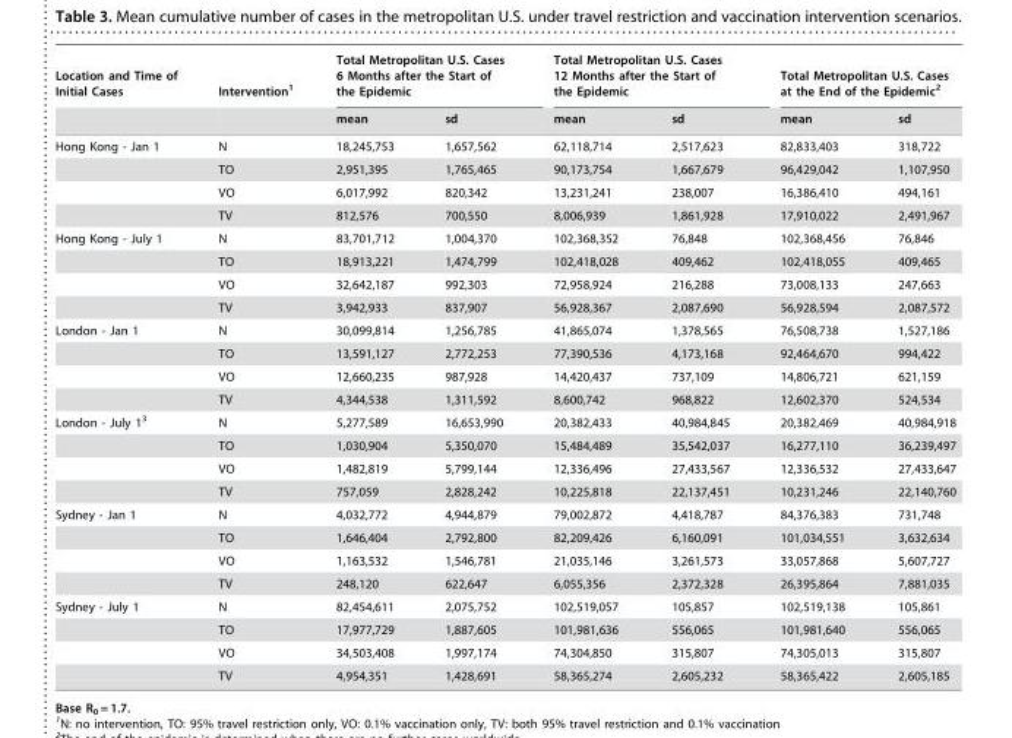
<table><thead><tr><td rowspan="2">Location and Time of Initial Cases</td><td rowspan="2">Intervention<sup>1</sup></td><td colspan="2">Total Metropolitan U.S. Cases 6 Months after the Start of the Epidemic</td><td colspan="2">Total Metropolitan U.S. Cases 12 Months after the Start of the Epidemic</td><td colspan="2">Total Metropolitan U.S. Cases at the End of the Epidemic<sup>2</sup></td></tr><tr><td>mean</td><td>sd</td><td>mean</td><td>sd</td><td>mean</td><td>sd</td></tr></thead><tbody><tr><td rowspan="4">Hong Kong - Jan 1</td><td>N</td><td>18,245,753</td><td>1,657,562</td><td>62,118,714</td><td>2,517,623</td><td>82,833,403</td><td>318,722</td></tr><tr><td>TO</td><td>2,951,395</td><td>1,765,465</td><td>90,173,754</td><td>1,667,679</td><td>96,429,042</td><td>1,107,950</td></tr><tr><td>VO</td><td>6,017,992</td><td>820,342</td><td>13,231,241</td><td>238,007</td><td>16,386,410</td><td>494,161</td></tr><tr><td>TV</td><td>812,576</td><td>700,550</td><td>8,006,939</td><td>1,861,928</td><td>17,910,022</td><td>2,491,967</td></tr><tr><td rowspan="4">Hong Kong - July 1</td><td>N</td><td>83,701,712</td><td>1,004,370</td><td>102,368,352</td><td>76,848</td><td>102,368,456</td><td>76,846</td></tr><tr><td>TO</td><td>18,913,221</td><td>1,474,799</td><td>102,418,028</td><td>409,462</td><td>102,418,055</td><td>409,465</td></tr><tr><td>VO</td><td>32,642,187</td><td>992,303</td><td>72,958,924</td><td>216,288</td><td>73,008,133</td><td>247,663</td></tr><tr><td>TV</td><td>3,942,933</td><td>837,907</td><td>56,928,367</td><td>2,087,690</td><td>56,928,594</td><td>2,087,572</td></tr><tr><td rowspan="4">London - Jan 1</td><td>N</td><td>30,099,814</td><td>1,256,785</td><td>41,865,074</td><td>1,378,565</td><td>76,508,738</td><td>1,527,186</td></tr><tr><td>TO</td><td>13,591,127</td><td>2,772,253</td><td>77,390,536</td><td>4,173,168</td><td>92,464,670</td><td>994,422</td></tr><tr><td>VO</td><td>12,660,235</td><td>987,928</td><td>14,420,437</td><td>737,109</td><td>14,806,721</td><td>621,159</td></tr><tr><td>TV</td><td>4,344,538</td><td>1,311,592</td><td>8,600,742</td><td>968,822</td><td>12,602,370</td><td>524,534</td></tr><tr><td rowspan="4">London - July 1<sup>3</sup></td><td>N</td><td>5,277,589</td><td>16,653,990</td><td>20,382,433</td><td>40,984,845</td><td>20,382,469</td><td>40,984,918</td></tr><tr><td>TO</td><td>1,030,904</td><td>5,350,070</td><td>15,484,489</td><td>35,542,037</td><td>16,277,110</td><td>36,239,497</td></tr><tr><td>VO</td><td>1,482,819</td><td>5,799,144</td><td>12,336,496</td><td>27,433,567</td><td>12,336,532</td><td>27,433,647</td></tr><tr><td>TV</td><td>757,059</td><td>2,828,242</td><td>10,225,818</td><td>22,137,451</td><td>10,231,246</td><td>22,140,760</td></tr><tr><td rowspan="4">Sydney - Jan 1</td><td>N</td><td>4,032,772</td><td>4,944,879</td><td>79,002,872</td><td>4,418,787</td><td>84,376,383</td><td>731,748</td></tr><tr><td>TO</td><td>1,646,404</td><td>2,792,800</td><td>82,209,426</td><td>6,160,091</td><td>101,034,551</td><td>3,632,634</td></tr><tr><td>VO</td><td>1,163,532</td><td>1,546,781</td><td>21,035,146</td><td>3,261,573</td><td>33,057,868</td><td>5,607,727</td></tr><tr><td>TV</td><td>248,120</td><td>622,647</td><td>6,055,356</td><td>2,372,328</td><td>26,395,864</td><td>7,881,035</td></tr><tr><td rowspan="4">Sydney - July 1</td><td>N</td><td>82,454,611</td><td>2,075,752</td><td>102,519,057</td><td>105,857</td><td>102,519,138</td><td>105,861</td></tr><tr><td>TO</td><td>17,977,729</td><td>1,887,605</td><td>101,981,636</td><td>556,065</td><td>101,981,640</td><td>556,065</td></tr><tr><td>VO</td><td>34,503,408</td><td>1,997,174</td><td>74,304,850</td><td>315,807</td><td>74,305,013</td><td>315,807</td></tr><tr><td>TV</td><td>4,954,351</td><td>1,428,691</td><td>58,365,274</td><td>2,605,232</td><td>58,365,422</td><td>2,605,185</td></tr></tbody></table>